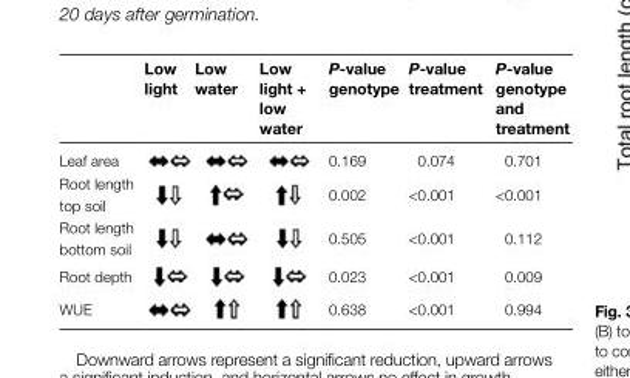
<table><thead><tr><td></td><td>Low light</td><td>Low water</td><td>Low light + low water</td><td>P-value genotype</td><td>P-value treatment</td><td>P-value genotype and treatment</td></tr></thead><tbody><tr><td>Leaf area</td><td></td><td></td><td></td><td>0.169</td><td>0.074</td><td>0.701</td></tr><tr><td>Root length top soil</td><td></td><td></td><td></td><td>0.002</td><td>&lt;0.001</td><td>&lt;0.001</td></tr><tr><td>Root length bottom soil</td><td></td><td></td><td></td><td>0.505</td><td>&lt;0.001</td><td>0.112</td></tr><tr><td>Root depth</td><td></td><td></td><td></td><td>0.023</td><td>&lt;0.001</td><td>0.009</td></tr><tr><td>WUE</td><td></td><td></td><td></td><td>0.638</td><td>&lt;0.001</td><td>0.994</td></tr></tbody></table>